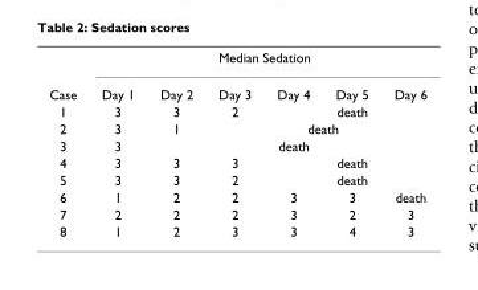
<table><thead><tr><td rowspan="2">Case</td><td colspan="6">Median Sedation</td></tr><tr><td>Day 1</td><td>Day 2</td><td>Day 3</td><td>Day 4</td><td>Day 5</td><td>Day 6</td></tr></thead><tbody><tr><td>1</td><td>3</td><td>3</td><td>2</td><td colspan="3">death</td></tr><tr><td>2</td><td>3</td><td>1</td><td colspan="4">death</td></tr><tr><td>3</td><td>3</td><td colspan="5">death</td></tr><tr><td>4</td><td>3</td><td>3</td><td>3</td><td colspan="3">death</td></tr><tr><td>5</td><td>3</td><td>3</td><td>2</td><td colspan="3">death</td></tr><tr><td>6</td><td>1</td><td>2</td><td>2</td><td>3</td><td>3</td><td>death</td></tr><tr><td>7</td><td>2</td><td>2</td><td>2</td><td>3</td><td>2</td><td>3</td></tr><tr><td>8</td><td>1</td><td>2</td><td>3</td><td>3</td><td>4</td><td>3</td></tr></tbody></table>